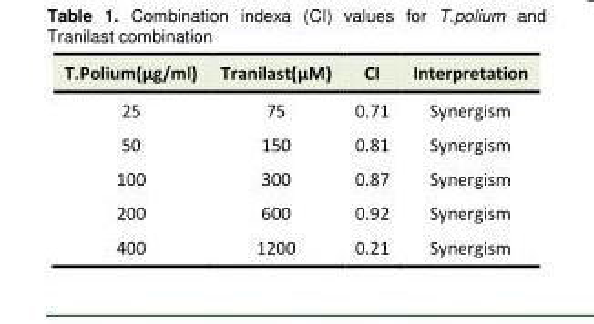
<table><tbody><tr><td>T.Polium(µg/ml)</td><td>Tranilast(µM)</td><td>CI</td><td>Interpretation</td></tr><tr><td>25</td><td>75</td><td>0.71</td><td>Synergism</td></tr><tr><td>50</td><td>150</td><td>0.81</td><td>Synergism</td></tr><tr><td>100</td><td>300</td><td>0.87</td><td>Synergism</td></tr><tr><td>200</td><td>600</td><td>0.92</td><td>Synergism</td></tr><tr><td>400</td><td>1200</td><td>0.21</td><td>Synergism</td></tr></tbody></table>